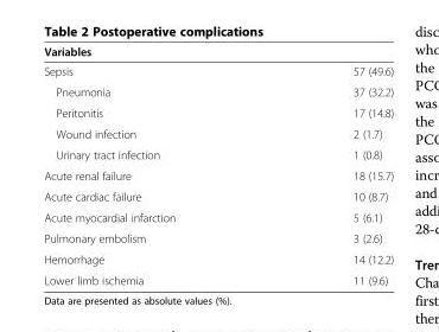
<table><thead><tr><td>Variables</td><td></td></tr></thead><tbody><tr><td>Sepsis</td><td>57 (49.6)</td></tr><tr><td>Pneumonia</td><td>37 (32.2)</td></tr><tr><td>Peritonitis</td><td>17 (14.8)</td></tr><tr><td>Wound infection</td><td>2 (1.7)</td></tr><tr><td>Urinary tract infection</td><td>1 (0.8)</td></tr><tr><td>Acute renal failure</td><td>18 (15.7)</td></tr><tr><td>Acute cardiac failure</td><td>10 (8.7)</td></tr><tr><td>Acute myocardial infarction</td><td>5 (6.1)</td></tr><tr><td>Pulmonary embolism</td><td>3 (2.6)</td></tr><tr><td>Hemorrhage</td><td>14 (12.2)</td></tr><tr><td>Lower limb ischemia</td><td>11 (9.6)</td></tr></tbody></table>